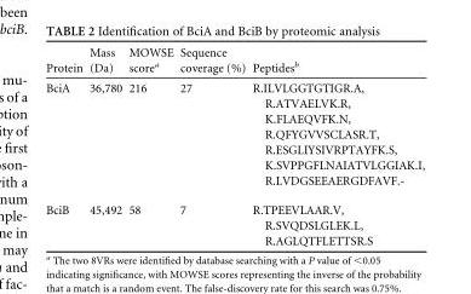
<table><thead><tr><td>Protein</td><td>Mass (Da)</td><td>MOWSE score<sup>a</sup></td><td>Sequence coverage (%)</td><td>Peptides<sup>b</sup></td></tr></thead><tbody><tr><td>BciA</td><td>36,780</td><td>216</td><td>27</td><td>R.ILVLGGTGTIGR.A, R.ATVAELVK.R, K.FLAEQVFK.N, R.QFYGVVSCLASR.T, R.ESGLIYSIVRPTAYFK.S, K.SVPPGFLNAIATVLGGIAK.I, R.LVDGSEEAERGDFAVF.-</td></tr><tr><td>BciB</td><td>45,492</td><td>58</td><td>7</td><td>R.TPEEVLAAR.V, R.SVQDSLGLEK.L, R.AGLQTFLETTSR.S</td></tr></tbody></table>